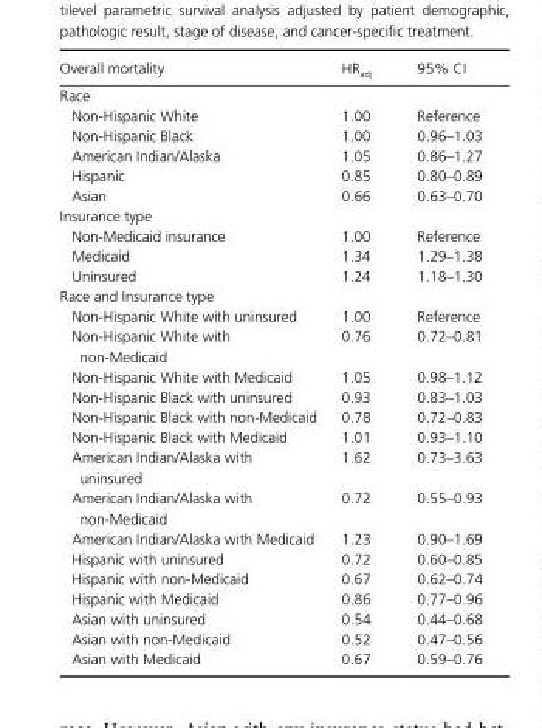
<table><thead><tr><td>Overall mortality</td><td>HR<sub>adj</sub></td><td>95% CI</td></tr></thead><tbody><tr><td colspan="3">Race</td></tr><tr><td>Non- Hispanic White</td><td>1.00</td><td>Reference</td></tr><tr><td>Non- Hispanic Black</td><td>1.00</td><td>0.96–1.03</td></tr><tr><td>American Indian/Alaska</td><td>1.05</td><td>0.86–1.27</td></tr><tr><td>Hispanic</td><td>0.85</td><td>0.80–0.89</td></tr><tr><td>Asian</td><td>0.66</td><td>0.63–0.70</td></tr><tr><td colspan="3">Insurance type</td></tr><tr><td>Non- Medicaid insurance</td><td>1.00</td><td>Reference</td></tr><tr><td>Medicaid</td><td>1.34</td><td>1.29–1.38</td></tr><tr><td>Uninsured</td><td>1.24</td><td>1.18–1.30</td></tr><tr><td colspan="3">Race and Insurance type</td></tr><tr><td>Non- Hispanic White with uninsured</td><td>1.00</td><td>Reference</td></tr><tr><td>Non- Hispanic White with non- Medicaid</td><td>0.76</td><td>0.72–0.81</td></tr><tr><td>Non- Hispanic White with Medicaid</td><td>1.05</td><td>0.98–1.12</td></tr><tr><td>Non- Hispanic Black with uninsured</td><td>0.93</td><td>0.83–1.03</td></tr><tr><td>Non- Hispanic Black with non- Medicaid</td><td>0.78</td><td>0.72–0.83</td></tr><tr><td>Non- Hispanic Black with Medicaid</td><td>1.01</td><td>0.93–1.10</td></tr><tr><td>American Indian/Alaska with uninsured</td><td>1.62</td><td>0.73–3.63</td></tr><tr><td>American Indian/Alaska with non- Medicaid</td><td>0.72</td><td>0.55–0.93</td></tr><tr><td>American Indian/Alaska with Medicaid</td><td>1.23</td><td>0.90–1.69</td></tr><tr><td>Hispanic with uninsured</td><td>0.72</td><td>0.60–0.85</td></tr><tr><td>Hispanic with non- Medicaid</td><td>0.67</td><td>0.62–0.74</td></tr><tr><td>Hispanic with Medicaid</td><td>0.86</td><td>0.77–0.96</td></tr><tr><td>Asian with uninsured</td><td>0.54</td><td>0.44–0.68</td></tr><tr><td>Asian with non- Medicaid</td><td>0.52</td><td>0.47–0.56</td></tr><tr><td>Asian with Medicaid</td><td>0.67</td><td>0.59–0.76</td></tr></tbody></table>